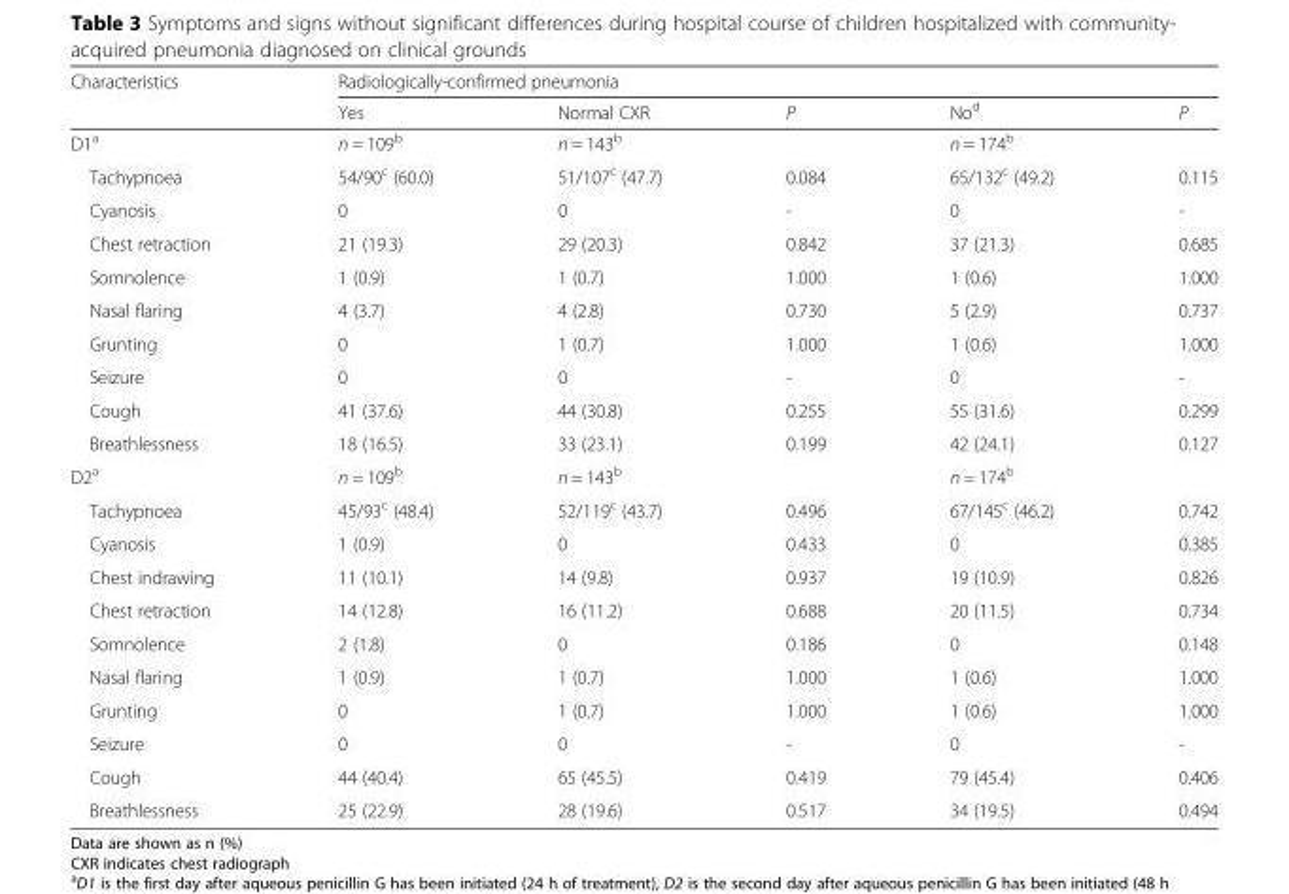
<table><thead><tr><td rowspan="2">Characteristics</td><td colspan="5">Radiologically-confirmed pneumonia</td></tr><tr><td>Yes</td><td>Normal CXR</td><td>P</td><td>No<sup>d</sup></td><td>P</td></tr></thead><tbody><tr><td>D1<sup>a</sup></td><td>n = 109<sup>b</sup></td><td>n = 143<sup>b</sup></td><td></td><td>n = 174<sup>b</sup></td><td></td></tr><tr><td>Tachypnoea</td><td>54/90<sup>c</sup> (60.0)</td><td>51/107<sup>c</sup> (47.7)</td><td>0.084</td><td>65/132<sup>c</sup> (49.2)</td><td>0.115</td></tr><tr><td>Cyanosis</td><td>0</td><td>0</td><td>-</td><td>0</td><td>-</td></tr><tr><td>Chest retraction</td><td>21 (19.3)</td><td>29 (20.3)</td><td>0.842</td><td>37 (21.3)</td><td>0.685</td></tr><tr><td>Somnolence</td><td>1 (0.9)</td><td>1 (0.7)</td><td>1.000</td><td>1 (0.6)</td><td>1.000</td></tr><tr><td>Nasal flaring</td><td>4 (3.7)</td><td>4 (2.8)</td><td>0.730</td><td>5 (2.9)</td><td>0.737</td></tr><tr><td>Grunting</td><td>0</td><td>1 (0.7)</td><td>1.000</td><td>1 (0.6)</td><td>1.000</td></tr><tr><td>Seizure</td><td>0</td><td>0</td><td>-</td><td>0</td><td>-</td></tr><tr><td>Cough</td><td>41 (37.6)</td><td>44 (30.8)</td><td>0.255</td><td>55 (31.6)</td><td>0.299</td></tr><tr><td>Breathlessness</td><td>18 (16.5)</td><td>33 (23.1)</td><td>0.199</td><td>42 (24.1)</td><td>0.127</td></tr><tr><td>D2<sup>a</sup></td><td>n = 109<sup>b</sup></td><td>n = 143<sup>b</sup></td><td></td><td>n = 174<sup>b</sup></td><td></td></tr><tr><td>Tachypnoea</td><td>45/93<sup>c</sup> (48.4)</td><td>52/119<sup>c</sup> (43.7)</td><td>0.496</td><td>67/145<sup>c</sup> (46.2)</td><td>0.742</td></tr><tr><td>Cyanosis</td><td>1 (0.9)</td><td>0</td><td>0.433</td><td>0</td><td>0.385</td></tr><tr><td>Chest indrawing</td><td>11 (10.1)</td><td>14 (9.8)</td><td>0.937</td><td>19 (10.9)</td><td>0.826</td></tr><tr><td>Chest retraction</td><td>14 (12.8)</td><td>16 (11.2)</td><td>0.688</td><td>20 (11.5)</td><td>0.734</td></tr><tr><td>Somnolence</td><td>2 (1.8)</td><td>0</td><td>0.186</td><td>0</td><td>0.148</td></tr><tr><td>Nasal flaring</td><td>1 (0.9)</td><td>1 (0.7)</td><td>1.000</td><td>1 (0.6)</td><td>1.000</td></tr><tr><td>Grunting</td><td>0</td><td>1 (0.7)</td><td>1.000</td><td>1 (0.6)</td><td>1.000</td></tr><tr><td>Seizure</td><td>0</td><td>0</td><td>-</td><td>0</td><td>-</td></tr><tr><td>Cough</td><td>44 (40.4)</td><td>65 (45.5)</td><td>0.419</td><td>79 (45.4)</td><td>0.406</td></tr><tr><td>Breathlessness</td><td>25 (22.9)</td><td>28 (19.6)</td><td>0.517</td><td>34 (19.5)</td><td>0.494</td></tr></tbody></table>